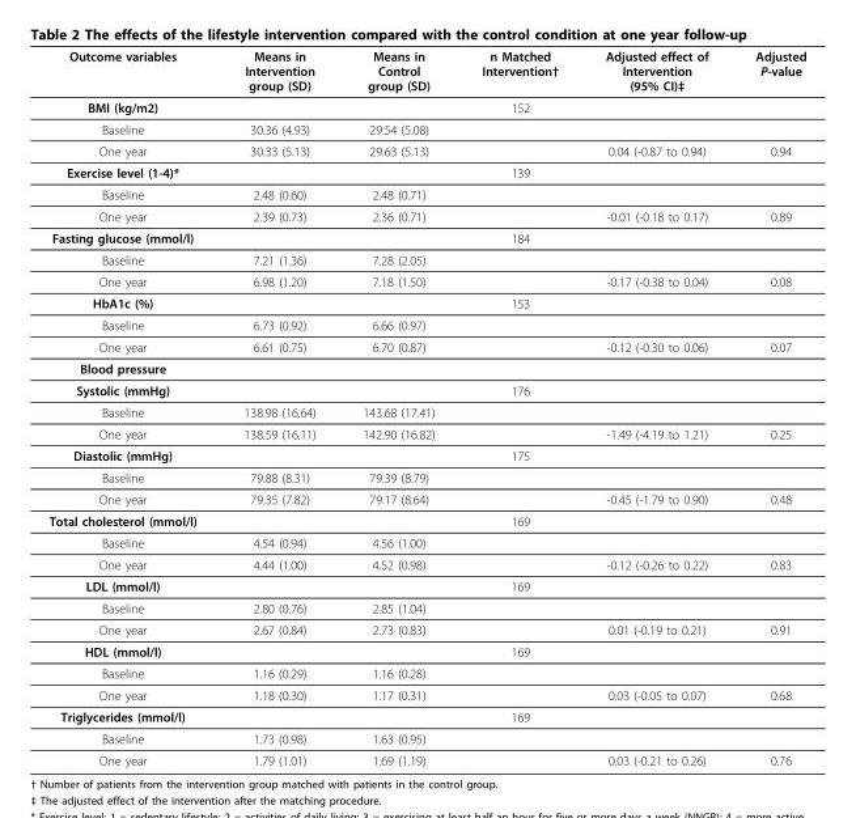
<table><thead><tr><td>Outcome variables</td><td>Means in Intervention group (SD)</td><td>Means in Control group (SD)</td><td>n Matched Intervention†</td><td>Adjusted effect of Intervention (95% CI)‡</td><td>Adjusted P-value</td></tr></thead><tbody><tr><td>BMI (kg/m2)</td><td></td><td></td><td>152</td><td></td><td></td></tr><tr><td>Baseline</td><td>30.36 (4.93)</td><td>29.54 (5.08)</td><td></td><td></td><td></td></tr><tr><td>One year</td><td>30.33 (5.13)</td><td>29.63 (5.13)</td><td></td><td>0.04 (-0.87 to 0.94)</td><td>0.94</td></tr><tr><td>Exercise level (1-4)*</td><td></td><td></td><td>139</td><td></td><td></td></tr><tr><td>Baseline</td><td>2.48 (0.60)</td><td>2.48 (0.71)</td><td></td><td></td><td></td></tr><tr><td>One year</td><td>2.39 (0.73)</td><td>2.36 (0.71)</td><td></td><td>-0.01 (-0.18 to 0.17)</td><td>0.89</td></tr><tr><td>Fasting glucose (mmol/l)</td><td></td><td></td><td>184</td><td></td><td></td></tr><tr><td>Baseline</td><td>7.21 (1.36)</td><td>7.28 (2.05)</td><td></td><td></td><td></td></tr><tr><td>One year</td><td>6.98 (1.20)</td><td>7.18 (1.50)</td><td></td><td>-0.17 (-0.38 to 0.04)</td><td>0.08</td></tr><tr><td>HbA1c (%)</td><td></td><td></td><td>153</td><td></td><td></td></tr><tr><td>Baseline</td><td>6.73 (0.92)</td><td>6.66 (0.97)</td><td></td><td></td><td></td></tr><tr><td>One year</td><td>6.61 (0.75)</td><td>6.70 (0.87)</td><td></td><td>-0.12 (-0.30 to 0.06)</td><td>0.07</td></tr><tr><td colspan="6">Blood pressure</td></tr><tr><td>Systolic (mmHg)</td><td></td><td></td><td>176</td><td></td><td></td></tr><tr><td>Baseline</td><td>138.98 (16.64)</td><td>143.68 (17.41)</td><td></td><td></td><td></td></tr><tr><td>One year</td><td>138.59 (16.11)</td><td>142.90 (16.82)</td><td></td><td>-1.49 (-4.19 to 1.21)</td><td>0.25</td></tr><tr><td>Diastolic (mmHg)</td><td></td><td></td><td>175</td><td></td><td></td></tr><tr><td>Baseline</td><td>79.88 (8.31)</td><td>79.39 (8.79)</td><td></td><td></td><td></td></tr><tr><td>One year</td><td>79.35 (7.82)</td><td>79.17 (8.64)</td><td></td><td>-0.45 (-1.79 to 0.90)</td><td>0.48</td></tr><tr><td>Total cholesterol (mmol/l)</td><td></td><td></td><td>169</td><td></td><td></td></tr><tr><td>Baseline</td><td>4.54 (0.94)</td><td>4.56 (1.00)</td><td></td><td></td><td></td></tr><tr><td>One year</td><td>4.44 (1.00)</td><td>4.52 (0.98)</td><td></td><td>-0.12 (-0.26 to 0.22)</td><td>0.83</td></tr><tr><td>LDL (mmol/l)</td><td></td><td></td><td>169</td><td></td><td></td></tr><tr><td>Baseline</td><td>2.80 (0.76)</td><td>2.85 (1.04)</td><td></td><td></td><td></td></tr><tr><td>One year</td><td>2.67 (0.84)</td><td>2.73 (0.83)</td><td></td><td>0.01 (-0.19 to 0.21)</td><td>0.91</td></tr><tr><td>HDL (mmol/l)</td><td></td><td></td><td>169</td><td></td><td></td></tr><tr><td>Baseline</td><td>1.16 (0.29)</td><td>1.16 (0.28)</td><td></td><td></td><td></td></tr><tr><td>One year</td><td>1.18 (0.30)</td><td>1.17 (0.31)</td><td></td><td>0.03 (-0.05 to 0.07)</td><td>0.68</td></tr><tr><td>Triglycerides (mmol/l)</td><td></td><td></td><td>169</td><td></td><td></td></tr><tr><td>Baseline</td><td>1.73 (0.98)</td><td>1.63 (0.95)</td><td></td><td></td><td></td></tr><tr><td>One year</td><td>1.79 (1.01)</td><td>1.69 (1.19)</td><td></td><td>0.03 (-0.21 to 0.26)</td><td>0.76</td></tr></tbody></table>